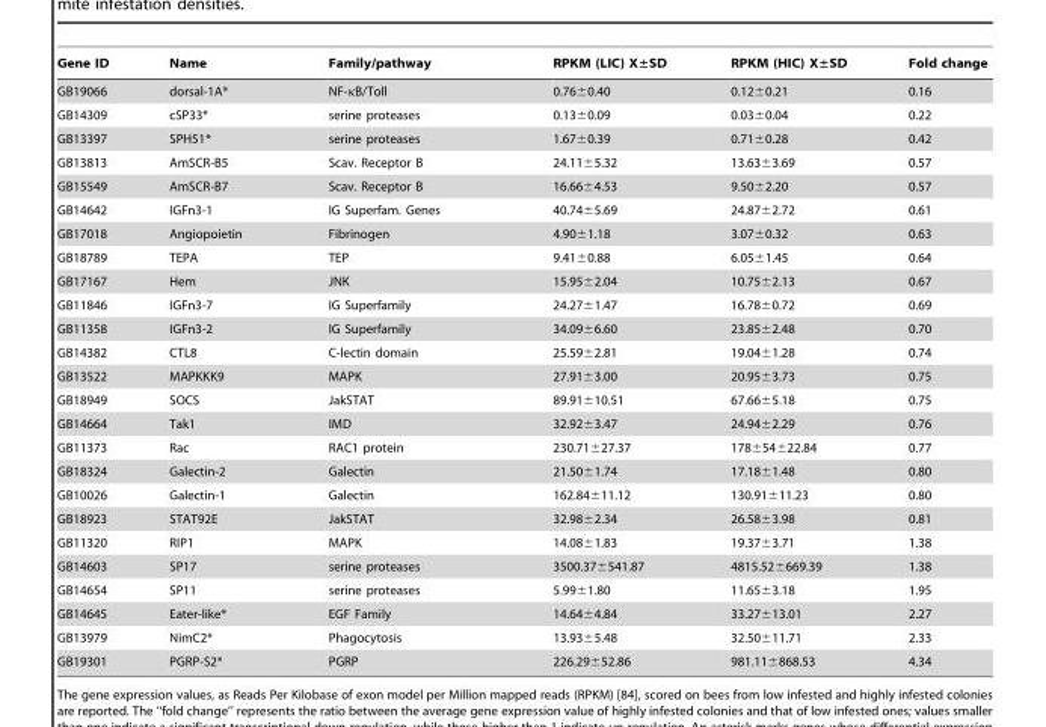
<table><thead><tr><td>Gene ID</td><td>Name</td><td>Family/pathway</td><td>RPKM (LIC) X±SD</td><td>RPKM (HIC) X±SD</td><td>Fold change</td></tr></thead><tbody><tr><td>GB19066</td><td>dorsal-1A*</td><td>NF-κB/Toll</td><td>0.76±0.40</td><td>0.12±0.21</td><td>0.16</td></tr><tr><td>GB14309</td><td>cSP33*</td><td>serine proteases</td><td>0.13±0.09</td><td>0.03±0.04</td><td>0.22</td></tr><tr><td>GB13397</td><td>SPH51*</td><td>serine proteases</td><td>1.67±0.39</td><td>0.71±0.28</td><td>0.42</td></tr><tr><td>GB13813</td><td>AmSCR-B5</td><td>Scav. Receptor B</td><td>24.11±5.32</td><td>13.63±3.69</td><td>0.57</td></tr><tr><td>GB15549</td><td>AmSCR-B7</td><td>Scav. Receptor B</td><td>16.66±4.53</td><td>9.50±2.20</td><td>0.57</td></tr><tr><td>GB14642</td><td>IGFn3-1</td><td>IG Superfam. Genes</td><td>40.74±5.69</td><td>24.87±2.72</td><td>0.61</td></tr><tr><td>GB17018</td><td>Angiopoietin</td><td>Fibrinogen</td><td>4.90±1.18</td><td>3.07±0.32</td><td>0.63</td></tr><tr><td>GB18789</td><td>TEPA</td><td>TEP</td><td>9.41±0.88</td><td>6.05±1.45</td><td>0.64</td></tr><tr><td>GB17167</td><td>Hem</td><td>JNK</td><td>15.95±2.04</td><td>10.75±2.13</td><td>0.67</td></tr><tr><td>GB11846</td><td>IGFn3-7</td><td>IG Superfamily</td><td>24.27±1.47</td><td>16.78±0.72</td><td>0.69</td></tr><tr><td>GB11358</td><td>IGFn3-2</td><td>IG Superfamily</td><td>34.09±6.60</td><td>23.85±2.48</td><td>0.70</td></tr><tr><td>GB14382</td><td>CTL8</td><td>C-lectin domain</td><td>25.59±2.81</td><td>19.04±1.28</td><td>0.74</td></tr><tr><td>GB13522</td><td>MAPKKK9</td><td>MAPK</td><td>27.91±3.00</td><td>20.95±3.73</td><td>0.75</td></tr><tr><td>GB18949</td><td>SOCS</td><td>JakSTAT</td><td>89.91±10.51</td><td>67.66±5.18</td><td>0.75</td></tr><tr><td>GB14664</td><td>Tak1</td><td>IMD</td><td>32.92±3.47</td><td>24.94±2.29</td><td>0.76</td></tr><tr><td>GB11373</td><td>Rac</td><td>RAC1 protein</td><td>230.71±27.37</td><td>178±54±22.84</td><td>0.77</td></tr><tr><td>GB18324</td><td>Galectin-2</td><td>Galectin</td><td>21.50±1.74</td><td>17.18±1.48</td><td>0.80</td></tr><tr><td>GB10026</td><td>Galectin-1</td><td>Galectin</td><td>162.84±11.12</td><td>130.91±11.23</td><td>0.80</td></tr><tr><td>GB18923</td><td>STAT92E</td><td>JakSTAT</td><td>32.98±2.34</td><td>26.58±3.98</td><td>0.81</td></tr><tr><td>GB11320</td><td>RIP1</td><td>MAPK</td><td>14.08±1.83</td><td>19.37±3.71</td><td>1.38</td></tr><tr><td>GB14603</td><td>SP17</td><td>serine proteases</td><td>3500.37±541.87</td><td>4815.52±669.39</td><td>1.38</td></tr><tr><td>GB14654</td><td>SP11</td><td>serine proteases</td><td>5.99±1.80</td><td>11.65±3.18</td><td>1.95</td></tr><tr><td>GB14645</td><td>Eater-like*</td><td>EGF Family</td><td>14.64±4.84</td><td>33.27±13.01</td><td>2.27</td></tr><tr><td>GB13979</td><td>NimC2*</td><td>Phagocytosis</td><td>13.93±5.48</td><td>32.50±11.71</td><td>2.33</td></tr><tr><td>GB19301</td><td>PGRP-S2*</td><td>PGRP</td><td>226.29±52.86</td><td>981.11±868.53</td><td>4.34</td></tr></tbody></table>